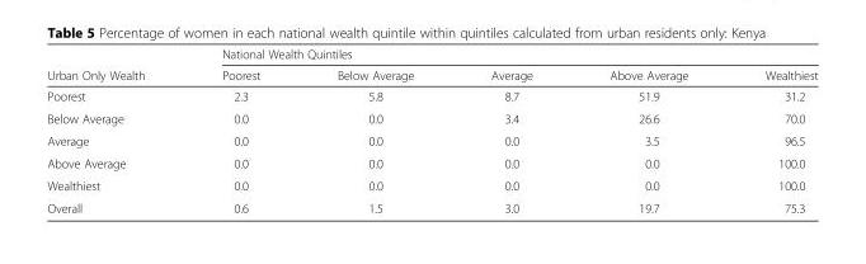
<table><thead><tr><td rowspan="2">Urban Only Wealth</td><td colspan="5">National Wealth Quintiles</td></tr><tr><td>Poorest</td><td>Below Average</td><td>Average</td><td>Above Average</td><td>Wealthiest</td></tr></thead><tbody><tr><td>Poorest</td><td>2.3</td><td>5.8</td><td>8.7</td><td>51.9</td><td>31.2</td></tr><tr><td>Below Average</td><td>0.0</td><td>0.0</td><td>3.4</td><td>26.6</td><td>70.0</td></tr><tr><td>Average</td><td>0.0</td><td>0.0</td><td>0.0</td><td>3.5</td><td>96.5</td></tr><tr><td>Above Average</td><td>0.0</td><td>0.0</td><td>0.0</td><td>0.0</td><td>100.0</td></tr><tr><td>Wealthiest</td><td>0.0</td><td>0.0</td><td>0.0</td><td>0.0</td><td>100.0</td></tr><tr><td>Overall</td><td>0.6</td><td>1.5</td><td>3.0</td><td>19.7</td><td>75.3</td></tr></tbody></table>